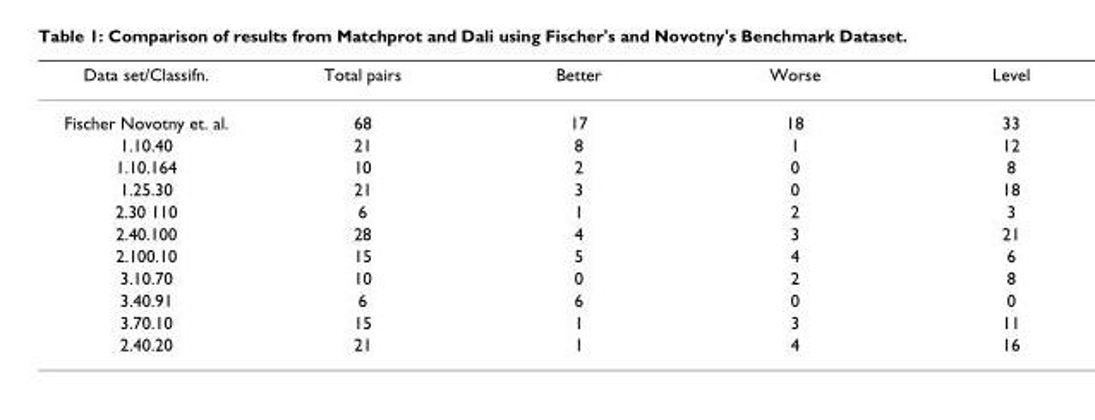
<table><thead><tr><td>Data set/Classifn.</td><td>Total pairs</td><td>Better</td><td>Worse</td><td>Level</td></tr></thead><tbody><tr><td>Fischer Novotny et. al.</td><td>68</td><td>17</td><td>18</td><td>33</td></tr><tr><td>1.10.40</td><td>21</td><td>8</td><td>1</td><td>12</td></tr><tr><td>1.10.164</td><td>10</td><td>2</td><td>0</td><td>8</td></tr><tr><td>1.25.30</td><td>21</td><td>3</td><td>0</td><td>18</td></tr><tr><td>2.30 110</td><td>6</td><td>1</td><td>2</td><td>3</td></tr><tr><td>2.40.100</td><td>28</td><td>4</td><td>3</td><td>21</td></tr><tr><td>2.100.10</td><td>15</td><td>5</td><td>4</td><td>6</td></tr><tr><td>3.10.70</td><td>10</td><td>0</td><td>2</td><td>8</td></tr><tr><td>3.40.91</td><td>6</td><td>6</td><td>0</td><td>0</td></tr><tr><td>3.70.10</td><td>15</td><td>1</td><td>3</td><td>11</td></tr><tr><td>2.40.20</td><td>21</td><td>1</td><td>4</td><td>16</td></tr></tbody></table>